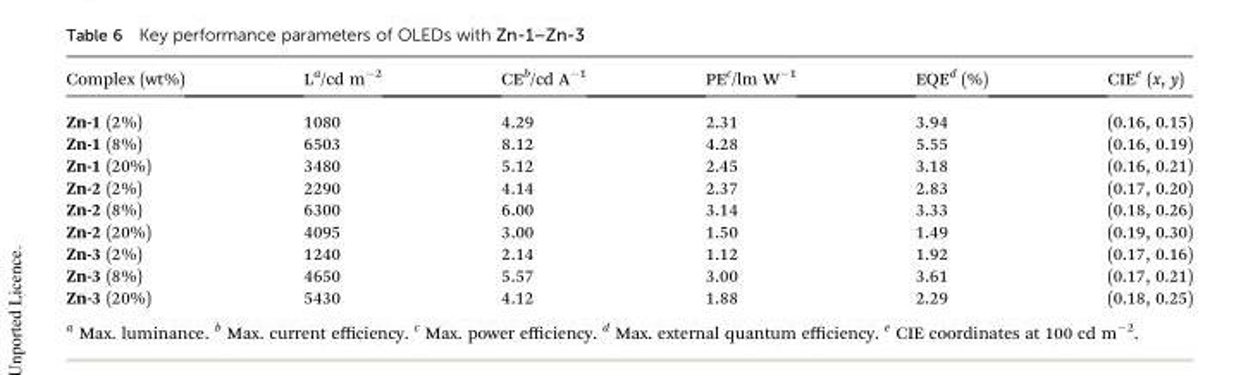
<table><thead><tr><td>Complex (wt%)</td><td>L<sup>a</sup>/cd m<sup>–2</sup></td><td>CE<sup>b</sup>/cd A<sup>–1</sup></td><td>PE<sup>c</sup>/lm W<sup>–1</sup></td><td>EQE<sup>d</sup> (%)</td><td>CIE<sup>e</sup> (x, y)</td></tr></thead><tbody><tr><td>Zn-1 (2%)</td><td>1080</td><td>4.29</td><td>2.31</td><td>3.94</td><td>(0.16, 0.15)</td></tr><tr><td>Zn-1 (8%)</td><td>6503</td><td>8.12</td><td>4.28</td><td>5.55</td><td>(0.16, 0.19)</td></tr><tr><td>Zn-1 (20%)</td><td>3480</td><td>5.12</td><td>2.45</td><td>3.18</td><td>(0.16, 0.21)</td></tr><tr><td>Zn-2 (2%)</td><td>2290</td><td>4.14</td><td>2.37</td><td>2.83</td><td>(0.17, 0.20)</td></tr><tr><td>Zn-2 (8%)</td><td>6300</td><td>6.00</td><td>3.14</td><td>3.33</td><td>(0.18, 0.26)</td></tr><tr><td>Zn-2 (20%)</td><td>4095</td><td>3.00</td><td>1.50</td><td>1.49</td><td>(0.19, 0.30)</td></tr><tr><td>Zn-3 (2%)</td><td>1240</td><td>2.14</td><td>1.12</td><td>1.92</td><td>(0.17, 0.16)</td></tr><tr><td>Zn-3 (8%)</td><td>4650</td><td>5.57</td><td>3.00</td><td>3.61</td><td>(0.17, 0.21)</td></tr><tr><td>Zn-3 (20%)</td><td>5430</td><td>4.12</td><td>1.88</td><td>2.29</td><td>(0.18, 0.25)</td></tr></tbody></table>